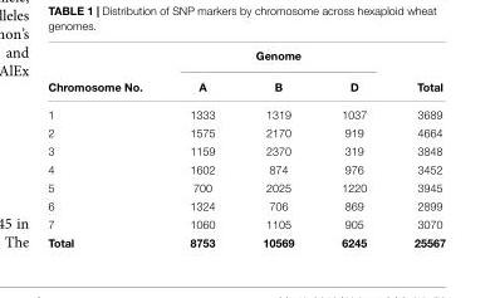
<table><thead><tr><td rowspan="2">Chromosome No.</td><td colspan="3">Genome</td><td rowspan="2">Total</td></tr><tr><td>A</td><td>B</td><td>D</td></tr></thead><tbody><tr><td>1</td><td>1333</td><td>1319</td><td>1037</td><td>3689</td></tr><tr><td>2</td><td>1575</td><td>2170</td><td>919</td><td>4664</td></tr><tr><td>3</td><td>1159</td><td>2370</td><td>319</td><td>3848</td></tr><tr><td>4</td><td>1602</td><td>874</td><td>976</td><td>3452</td></tr><tr><td>5</td><td>700</td><td>2025</td><td>1220</td><td>3945</td></tr><tr><td>6</td><td>1324</td><td>706</td><td>869</td><td>2899</td></tr><tr><td>7</td><td>1060</td><td>1105</td><td>905</td><td>3070</td></tr><tr><td>Total</td><td>8753</td><td>10569</td><td>6245</td><td>25567</td></tr></tbody></table>